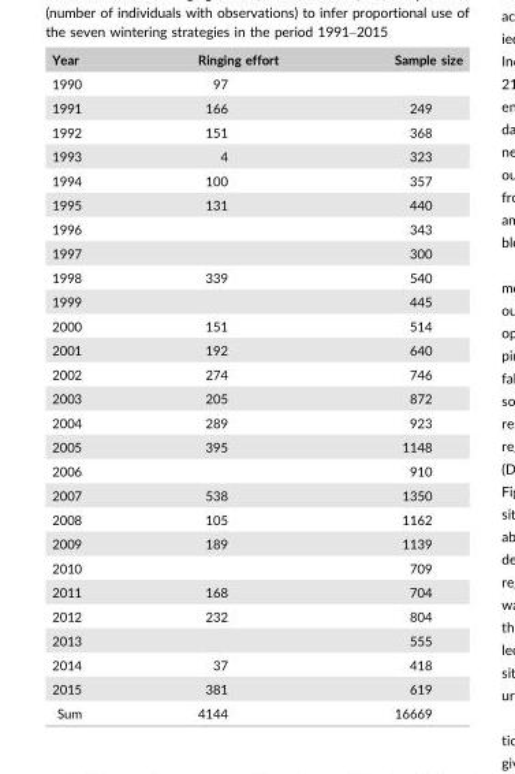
<table><thead><tr><td>Year</td><td>Ringing effort</td><td>Sample size</td></tr></thead><tbody><tr><td>1990</td><td>97</td><td></td></tr><tr><td>1991</td><td>166</td><td>249</td></tr><tr><td>1992</td><td>151</td><td>368</td></tr><tr><td>1993</td><td>4</td><td>323</td></tr><tr><td>1994</td><td>100</td><td>357</td></tr><tr><td>1995</td><td>131</td><td>440</td></tr><tr><td>1996</td><td></td><td>343</td></tr><tr><td>1997</td><td></td><td>300</td></tr><tr><td>1998</td><td>339</td><td>540</td></tr><tr><td>1999</td><td></td><td>445</td></tr><tr><td>2000</td><td>151</td><td>514</td></tr><tr><td>2001</td><td>192</td><td>640</td></tr><tr><td>2002</td><td>274</td><td>746</td></tr><tr><td>2003</td><td>205</td><td>872</td></tr><tr><td>2004</td><td>289</td><td>923</td></tr><tr><td>2005</td><td>395</td><td>1148</td></tr><tr><td>2006</td><td></td><td>910</td></tr><tr><td>2007</td><td>538</td><td>1350</td></tr><tr><td>2008</td><td>105</td><td>1162</td></tr><tr><td>2009</td><td>189</td><td>1139</td></tr><tr><td>2010</td><td></td><td>709</td></tr><tr><td>2011</td><td>168</td><td>704</td></tr><tr><td>2012</td><td>232</td><td>804</td></tr><tr><td>2013</td><td></td><td>555</td></tr><tr><td>2014</td><td>37</td><td>418</td></tr><tr><td>2015</td><td>381</td><td>619</td></tr><tr><td>Sum</td><td>4144</td><td>16669</td></tr></tbody></table>